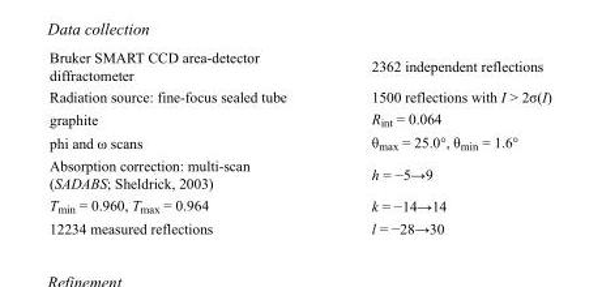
<table><tbody><tr><td>Bruker SMART CCD area-detector diffractometer</td><td>2362 independent reflections</td></tr><tr><td>Radiation source: fine-focus sealed tube</td><td>1500 reflections with I &gt; 2σ(I)</td></tr><tr><td>graphite</td><td>R<sub>int</sub> = 0.064</td></tr><tr><td>phi and ω scans</td><td>θ<sub>max</sub> = 25.0°, θ<sub>min</sub> = 1.6°</td></tr><tr><td>Absorption correction: multi-scan (SADABS; Sheldrick, 2003)</td><td>h = −5→9</td></tr><tr><td>T<sub>min</sub> = 0.960, T<sub>max</sub> = 0.964</td><td>k = −14→14</td></tr><tr><td>12234 measured reflections</td><td>l = −28→30</td></tr></tbody></table>